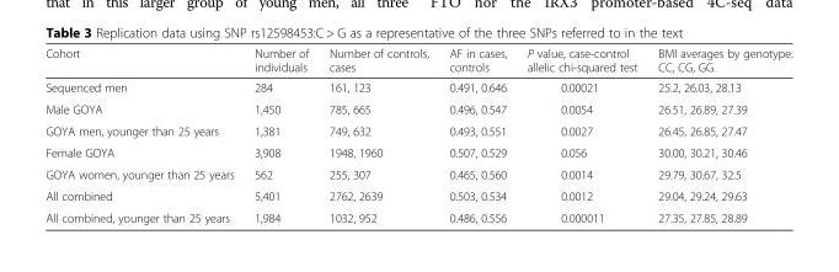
<table><thead><tr><td>Cohort</td><td>Number of individuals</td><td>Number of controls, cases</td><td>AF in cases, controls</td><td>P value, case-control allelic chi-squared test</td><td>BMI averages by genotype: CC, CG, GG</td></tr></thead><tbody><tr><td>Sequenced men</td><td>284</td><td>161, 123</td><td>0.491, 0.646</td><td>0.00021</td><td>25.2, 26.03, 28.13</td></tr><tr><td>Male GOYA</td><td>1,450</td><td>785, 665</td><td>0.496, 0.547</td><td>0.0054</td><td>26.51, 26.89, 27.39</td></tr><tr><td>GOYA men, younger than 25 years</td><td>1,381</td><td>749, 632</td><td>0.493, 0.551</td><td>0.0027</td><td>26.45, 26.85, 27.47</td></tr><tr><td>Female GOYA</td><td>3,908</td><td>1948, 1960</td><td>0.507, 0.529</td><td>0.056</td><td>30.00, 30.21, 30.46</td></tr><tr><td>GOYA women, younger than 25 years</td><td>562</td><td>255, 307</td><td>0.465, 0.560</td><td>0.0014</td><td>29.79, 30.67, 32.5</td></tr><tr><td>All combined</td><td>5,401</td><td>2762, 2639</td><td>0.503, 0.534</td><td>0.0012</td><td>29.04, 29.24, 29.63</td></tr><tr><td>All combined, younger than 25 years</td><td>1,984</td><td>1032, 952</td><td>0.486, 0.556</td><td>0.000011</td><td>27.35, 27.85, 28.89</td></tr></tbody></table>